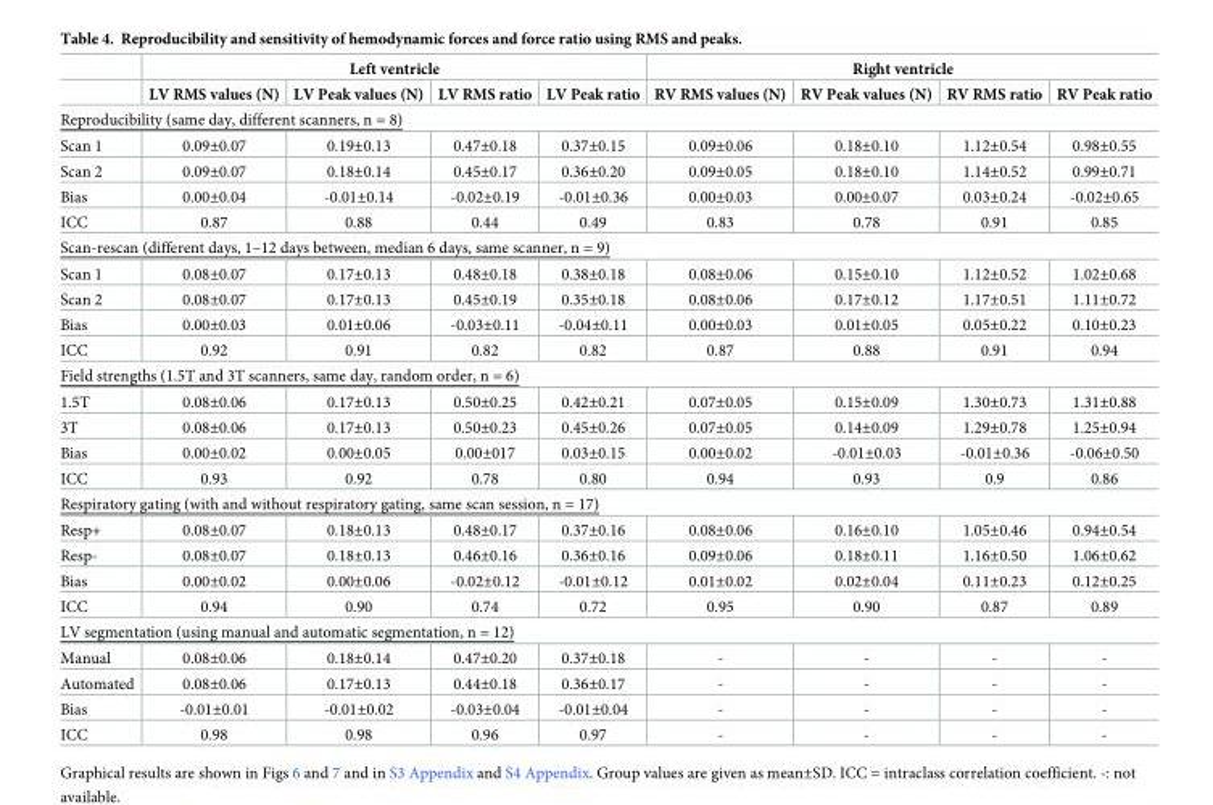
<table><thead><tr><td rowspan="2"></td><td colspan="4">Left ventricle</td><td colspan="4">Right ventricle</td></tr><tr><td>LV RMS values (N)</td><td>LV Peak values (N)</td><td>LV RMS ratio</td><td>LV Peak ratio</td><td>RV RMS values (N)</td><td>RV Peak values (N)</td><td>RV RMS ratio</td><td>RV Peak ratio</td></tr></thead><tbody><tr><td colspan="9">Reproducibility (same day, different scanners, n = 8)</td></tr><tr><td>Scan 1</td><td>0.09±0.07</td><td>0.19±0.13</td><td>0.47±0.18</td><td>0.37±0.15</td><td>0.09±0.06</td><td>0.18±0.10</td><td>1.12±0.54</td><td>0.98±0.55</td></tr><tr><td>Scan 2</td><td>0.09±0.07</td><td>0.18±0.14</td><td>0.45±0.17</td><td>0.36±0.20</td><td>0.09±0.05</td><td>0.18±0.10</td><td>1.14±0.52</td><td>0.99±0.71</td></tr><tr><td>Bias</td><td>0.00±0.04</td><td>-0.01±0.14</td><td>-0.02±0.19</td><td>-0.01±0.36</td><td>0.00±0.03</td><td>0.00±0.07</td><td>0.03±0.24</td><td>-0.02±0.65</td></tr><tr><td>ICC</td><td>0.87</td><td>0.88</td><td>0.44</td><td>0.49</td><td>0.83</td><td>0.78</td><td>0.91</td><td>0.85</td></tr><tr><td colspan="9">Scan-rescan (different days, 1–12 days between, median 6 days, same scanner, n = 9)</td></tr><tr><td>Scan 1</td><td>0.08±0.07</td><td>0.17±0.13</td><td>0.48±0.18</td><td>0.38±0.18</td><td>0.08±0.06</td><td>0.15±0.10</td><td>1.12±0.52</td><td>1.02±0.68</td></tr><tr><td>Scan 2</td><td>0.08±0.07</td><td>0.17±0.13</td><td>0.45±0.19</td><td>0.35±0.18</td><td>0.08±0.06</td><td>0.17±0.12</td><td>1.17±0.51</td><td>1.11±0.72</td></tr><tr><td>Bias</td><td>0.00±0.03</td><td>0.01±0.06</td><td>-0.03±0.11</td><td>-0.04±0.11</td><td>0.00±0.03</td><td>0.01±0.05</td><td>0.05±0.22</td><td>0.10±0.23</td></tr><tr><td>ICC</td><td>0.92</td><td>0.91</td><td>0.82</td><td>0.82</td><td>0.87</td><td>0.88</td><td>0.91</td><td>0.94</td></tr><tr><td colspan="9">Field strengths (1.5T and 3T scanners, same day, random order, n = 6)</td></tr><tr><td>1.5T</td><td>0.08±0.06</td><td>0.17±0.13</td><td>0.50±0.25</td><td>0.42±0.21</td><td>0.07±0.05</td><td>0.15±0.09</td><td>1.30±0.73</td><td>1.31±0.88</td></tr><tr><td>3T</td><td>0.08±0.06</td><td>0.17±0.13</td><td>0.50±0.23</td><td>0.45±0.26</td><td>0.07±0.05</td><td>0.14±0.09</td><td>1.29±0.78</td><td>1.25±0.94</td></tr><tr><td>Bias</td><td>0.00±0.02</td><td>0.00±0.05</td><td>0.00±017</td><td>0.03±0.15</td><td>0.00±0.02</td><td>-0.01±0.03</td><td>-0.01±0.36</td><td>-0.06±0.50</td></tr><tr><td>ICC</td><td>0.93</td><td>0.92</td><td>0.78</td><td>0.80</td><td>0.94</td><td>0.93</td><td>0.9</td><td>0.86</td></tr><tr><td colspan="9">Respiratory gating (with and without respiratory gating, same scan session, n = 17)</td></tr><tr><td>Resp+</td><td>0.08±0.07</td><td>0.18±0.13</td><td>0.48±0.17</td><td>0.37±0.16</td><td>0.08±0.06</td><td>0.16±0.10</td><td>1.05±0.46</td><td>0.94±0.54</td></tr><tr><td>Resp-</td><td>0.08±0.07</td><td>0.18±0.13</td><td>0.46±0.16</td><td>0.36±0.16</td><td>0.09±0.06</td><td>0.18±0.11</td><td>1.16±0.50</td><td>1.06±0.62</td></tr><tr><td>Bias</td><td>0.00±0.02</td><td>0.00±0.06</td><td>-0.02±0.12</td><td>-0.01±0.12</td><td>0.01±0.02</td><td>0.02±0.04</td><td>0.11±0.23</td><td>0.12±0.25</td></tr><tr><td>ICC</td><td>0.94</td><td>0.90</td><td>0.74</td><td>0.72</td><td>0.95</td><td>0.90</td><td>0.87</td><td>0.89</td></tr><tr><td colspan="9">LV segmentation (using manual and automatic segmentation, n = 12)</td></tr><tr><td>Manual</td><td>0.08±0.06</td><td>0.18±0.14</td><td>0.47±0.20</td><td>0.37±0.18</td><td>-</td><td>-</td><td>-</td><td>-</td></tr><tr><td>Automated</td><td>0.08±0.06</td><td>0.17±0.13</td><td>0.44±0.18</td><td>0.36±0.17</td><td>-</td><td>-</td><td>-</td><td>-</td></tr><tr><td>Bias</td><td>-0.01±0.01</td><td>-0.01±0.02</td><td>-0.03±0.04</td><td>-0.01±0.04</td><td>-</td><td>-</td><td>-</td><td>-</td></tr><tr><td>ICC</td><td>0.98</td><td>0.98</td><td>0.96</td><td>0.97</td><td>-</td><td>-</td><td>-</td><td>-</td></tr></tbody></table>